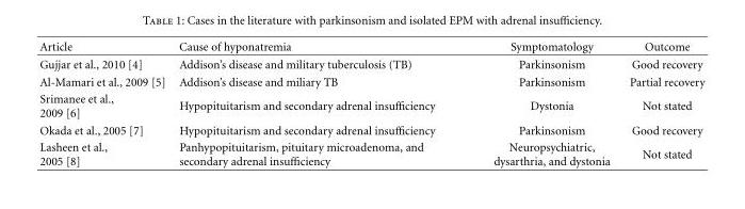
<table><thead><tr><td>Article</td><td>Cause of hyponatremia</td><td>Symptomatology</td><td>Outcome</td></tr></thead><tbody><tr><td>Gujjar et al., 2010 [4]</td><td>Addison’s disease and military tuberculosis (TB)</td><td>Parkinsonism</td><td>Good recovery</td></tr><tr><td>Al-Mamari et al., 2009 [5]</td><td>Addison’s disease and miliary TB</td><td>Parkinsonism</td><td>Partial recovery</td></tr><tr><td>Srimanee et al., 2009 [6]</td><td>Hypopituitarism and secondary adrenal insufficiency</td><td>Dystonia</td><td>Not stated</td></tr><tr><td>Okada et al., 2005 [7]</td><td>Hypopituitarism and secondary adrenal insufficiency</td><td>Parkinsonism</td><td>Good recovery</td></tr><tr><td>Lasheen et al., 2005 [8]</td><td>Panhypopituitarism, pituitary microadenoma, and secondary adrenal insufficiency</td><td>Neuropsychiatric, dysarthria, and dystonia</td><td>Not stated</td></tr></tbody></table>